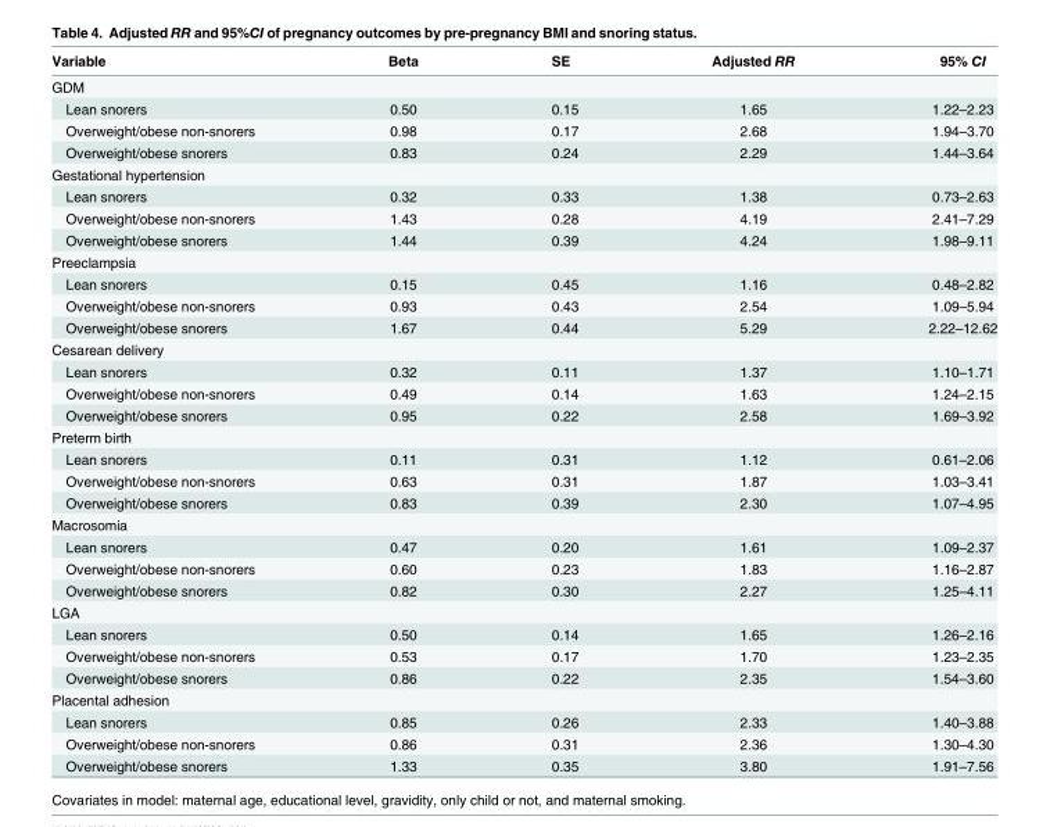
<table><thead><tr><td>Variable</td><td>Beta</td><td>SE</td><td>Adjusted RR</td><td>95% CI</td></tr></thead><tbody><tr><td colspan="5">GDM</td></tr><tr><td>Lean snorers</td><td>0.50</td><td>0.15</td><td>1.65</td><td>1.22–2.23</td></tr><tr><td>Overweight/obese non-snorers</td><td>0.98</td><td>0.17</td><td>2.68</td><td>1.94–3.70</td></tr><tr><td>Overweight/obese snorers</td><td>0.83</td><td>0.24</td><td>2.29</td><td>1.44–3.64</td></tr><tr><td colspan="5">Gestational hypertension</td></tr><tr><td>Lean snorers</td><td>0.32</td><td>0.33</td><td>1.38</td><td>0.73–2.63</td></tr><tr><td>Overweight/obese non-snorers</td><td>1.43</td><td>0.28</td><td>4.19</td><td>2.41–7.29</td></tr><tr><td>Overweight/obese snorers</td><td>1.44</td><td>0.39</td><td>4.24</td><td>1.98–9.11</td></tr><tr><td colspan="5">Preeclampsia</td></tr><tr><td>Lean snorers</td><td>0.15</td><td>0.45</td><td>1.16</td><td>0.48–2.82</td></tr><tr><td>Overweight/obese non-snorers</td><td>0.93</td><td>0.43</td><td>2.54</td><td>1.09–5.94</td></tr><tr><td>Overweight/obese snorers</td><td>1.67</td><td>0.44</td><td>5.29</td><td>2.22–12.62</td></tr><tr><td colspan="5">Cesarean delivery</td></tr><tr><td>Lean snorers</td><td>0.32</td><td>0.11</td><td>1.37</td><td>1.10–1.71</td></tr><tr><td>Overweight/obese non-snorers</td><td>0.49</td><td>0.14</td><td>1.63</td><td>1.24–2.15</td></tr><tr><td>Overweight/obese snorers</td><td>0.95</td><td>0.22</td><td>2.58</td><td>1.69–3.92</td></tr><tr><td colspan="5">Preterm birth</td></tr><tr><td>Lean snorers</td><td>0.11</td><td>0.31</td><td>1.12</td><td>0.61–2.06</td></tr><tr><td>Overweight/obese non-snorers</td><td>0.63</td><td>0.31</td><td>1.87</td><td>1.03–3.41</td></tr><tr><td>Overweight/obese snorers</td><td>0.83</td><td>0.39</td><td>2.30</td><td>1.07–4.95</td></tr><tr><td colspan="5">Macrosomia</td></tr><tr><td>Lean snorers</td><td>0.47</td><td>0.20</td><td>1.61</td><td>1.09–2.37</td></tr><tr><td>Overweight/obese non-snorers</td><td>0.60</td><td>0.23</td><td>1.83</td><td>1.16–2.87</td></tr><tr><td>Overweight/obese snorers</td><td>0.82</td><td>0.30</td><td>2.27</td><td>1.25–4.11</td></tr><tr><td colspan="5">LGA</td></tr><tr><td>Lean snorers</td><td>0.50</td><td>0.14</td><td>1.65</td><td>1.26–2.16</td></tr><tr><td>Overweight/obese non-snorers</td><td>0.53</td><td>0.17</td><td>1.70</td><td>1.23–2.35</td></tr><tr><td>Overweight/obese snorers</td><td>0.86</td><td>0.22</td><td>2.35</td><td>1.54–3.60</td></tr><tr><td colspan="5">Placental adhesion</td></tr><tr><td>Lean snorers</td><td>0.85</td><td>0.26</td><td>2.33</td><td>1.40–3.88</td></tr><tr><td>Overweight/obese non-snorers</td><td>0.86</td><td>0.31</td><td>2.36</td><td>1.30–4.30</td></tr><tr><td>Overweight/obese snorers</td><td>1.33</td><td>0.35</td><td>3.80</td><td>1.91–7.56</td></tr></tbody></table>